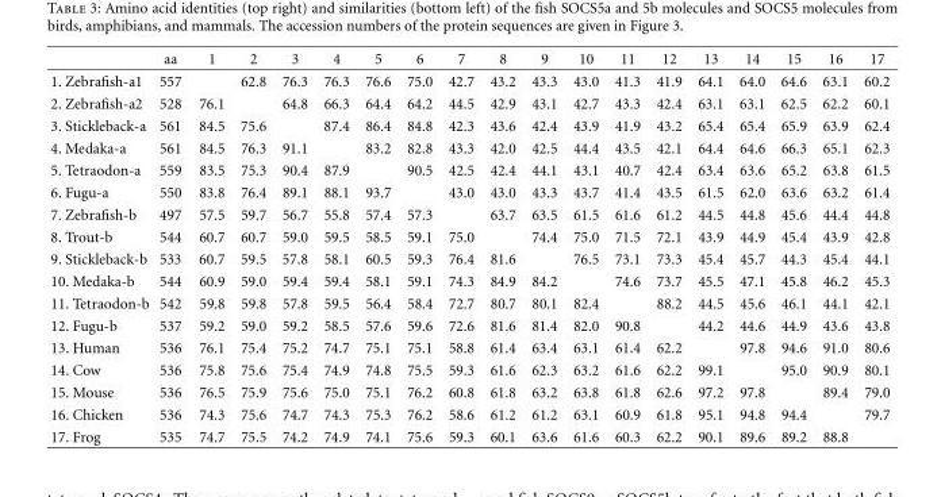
<table><thead><tr><td></td><td>aa</td><td>1</td><td>2</td><td>3</td><td>4</td><td>5</td><td>6</td><td>7</td><td>8</td><td>9</td><td>10</td><td>11</td><td>12</td><td>13</td><td>14</td><td>15</td><td>16</td><td>17</td></tr></thead><tbody><tr><td>1. Zebrafish-a1</td><td>557</td><td></td><td>62.8</td><td>76.3</td><td>76.3</td><td>76.6</td><td>75.0</td><td>42.7</td><td>43.2</td><td>43.3</td><td>43.0</td><td>41.3</td><td>41.9</td><td>64.1</td><td>64.0</td><td>64.6</td><td>63.1</td><td>60.2</td></tr><tr><td>2. Zebrafish-a2</td><td>528</td><td>76.1</td><td></td><td>64.8</td><td>66.3</td><td>64.4</td><td>64.2</td><td>44.5</td><td>42.9</td><td>43.1</td><td>42.7</td><td>43.3</td><td>42.4</td><td>63.1</td><td>63.1</td><td>62.5</td><td>62.2</td><td>60.1</td></tr><tr><td>3. Stickleback-a</td><td>561</td><td>84.5</td><td>75.6</td><td></td><td>87.4</td><td>86.4</td><td>84.8</td><td>42.3</td><td>43.6</td><td>42.4</td><td>43.9</td><td>41.9</td><td>43.2</td><td>65.4</td><td>65.4</td><td>65.9</td><td>63.9</td><td>62.4</td></tr><tr><td>4. Medaka-a</td><td>561</td><td>84.5</td><td>76.3</td><td>91.1</td><td></td><td>83.2</td><td>82.8</td><td>43.3</td><td>42.0</td><td>42.5</td><td>44.4</td><td>43.5</td><td>42.1</td><td>64.4</td><td>64.6</td><td>66.3</td><td>65.1</td><td>62.3</td></tr><tr><td>5. Tetraodon-a</td><td>559</td><td>83.5</td><td>75.3</td><td>90.4</td><td>87.9</td><td></td><td>90.5</td><td>42.5</td><td>42.4</td><td>44.1</td><td>43.1</td><td>40.7</td><td>42.4</td><td>63.4</td><td>63.6</td><td>65.2</td><td>63.8</td><td>61.5</td></tr><tr><td>6. Fugu-a</td><td>550</td><td>83.8</td><td>76.4</td><td>89.1</td><td>88.1</td><td>93.7</td><td></td><td>43.0</td><td>43.0</td><td>43.3</td><td>43.7</td><td>41.4</td><td>43.5</td><td>61.5</td><td>62.0</td><td>63.6</td><td>63.2</td><td>61.4</td></tr><tr><td>7. Zebrafish-b</td><td>497</td><td>57.5</td><td>59.7</td><td>56.7</td><td>55.8</td><td>57.4</td><td>57.3</td><td></td><td>63.7</td><td>63.5</td><td>61.5</td><td>61.6</td><td>61.2</td><td>44.5</td><td>44.8</td><td>45.6</td><td>44.4</td><td>44.8</td></tr><tr><td>8. Trout-b</td><td>544</td><td>60.7</td><td>60.7</td><td>59.0</td><td>59.5</td><td>58.5</td><td>59.1</td><td>75.0</td><td></td><td>74.4</td><td>75.0</td><td>71.5</td><td>72.1</td><td>43.9</td><td>44.9</td><td>45.4</td><td>43.9</td><td>42.8</td></tr><tr><td>9. Stickleback-b</td><td>533</td><td>60.7</td><td>59.5</td><td>57.8</td><td>58.1</td><td>60.5</td><td>59.3</td><td>76.4</td><td>81.6</td><td></td><td>76.5</td><td>73.1</td><td>73.3</td><td>45.4</td><td>45.7</td><td>44.3</td><td>45.4</td><td>44.1</td></tr><tr><td>10. Medaka-b</td><td>544</td><td>60.9</td><td>59.0</td><td>59.4</td><td>59.4</td><td>58.1</td><td>59.1</td><td>74.3</td><td>84.9</td><td>84.2</td><td></td><td>74.6</td><td>73.7</td><td>45.5</td><td>47.1</td><td>45.8</td><td>46.2</td><td>45.3</td></tr><tr><td>11. Tetraodon-b</td><td>542</td><td>59.8</td><td>59.8</td><td>57.8</td><td>59.5</td><td>56.4</td><td>58.4</td><td>72.7</td><td>80.7</td><td>80.1</td><td>82.4</td><td></td><td>88.2</td><td>44.5</td><td>45.6</td><td>46.1</td><td>44.1</td><td>42.1</td></tr><tr><td>12. Fugu-b</td><td>537</td><td>59.2</td><td>59.0</td><td>59.2</td><td>58.5</td><td>57.6</td><td>59.6</td><td>72.6</td><td>81.6</td><td>81.4</td><td>82.0</td><td>90.8</td><td></td><td>44.2</td><td>44.6</td><td>44.9</td><td>43.6</td><td>43.8</td></tr><tr><td>13. Human</td><td>536</td><td>76.1</td><td>75.4</td><td>75.2</td><td>74.7</td><td>75.1</td><td>75.1</td><td>58.8</td><td>61.4</td><td>63.4</td><td>63.1</td><td>61.4</td><td>62.2</td><td></td><td>97.8</td><td>94.6</td><td>91.0</td><td>80.6</td></tr><tr><td>14. Cow</td><td>536</td><td>75.8</td><td>75.6</td><td>75.4</td><td>74.9</td><td>74.8</td><td>75.5</td><td>59.3</td><td>61.6</td><td>62.3</td><td>63.2</td><td>61.6</td><td>62.2</td><td>99.1</td><td></td><td>95.0</td><td>90.9</td><td>80.1</td></tr><tr><td>15. Mouse</td><td>536</td><td>76.5</td><td>75.9</td><td>75.6</td><td>75.0</td><td>75.1</td><td>76.2</td><td>60.8</td><td>61.8</td><td>63.2</td><td>63.8</td><td>61.8</td><td>62.6</td><td>97.2</td><td>97.8</td><td></td><td>89.4</td><td>79.0</td></tr><tr><td>16. Chicken</td><td>536</td><td>74.3</td><td>75.6</td><td>74.7</td><td>74.3</td><td>75.3</td><td>76.2</td><td>58.6</td><td>61.2</td><td>61.2</td><td>63.1</td><td>60.9</td><td>61.8</td><td>95.1</td><td>94.8</td><td>94.4</td><td></td><td>79.7</td></tr><tr><td>17. Frog</td><td>535</td><td>74.7</td><td>75.5</td><td>74.2</td><td>74.9</td><td>74.1</td><td>75.6</td><td>59.3</td><td>60.1</td><td>63.6</td><td>61.6</td><td>60.3</td><td>62.2</td><td>90.1</td><td>89.6</td><td>89.2</td><td>88.8</td><td></td></tr></tbody></table>